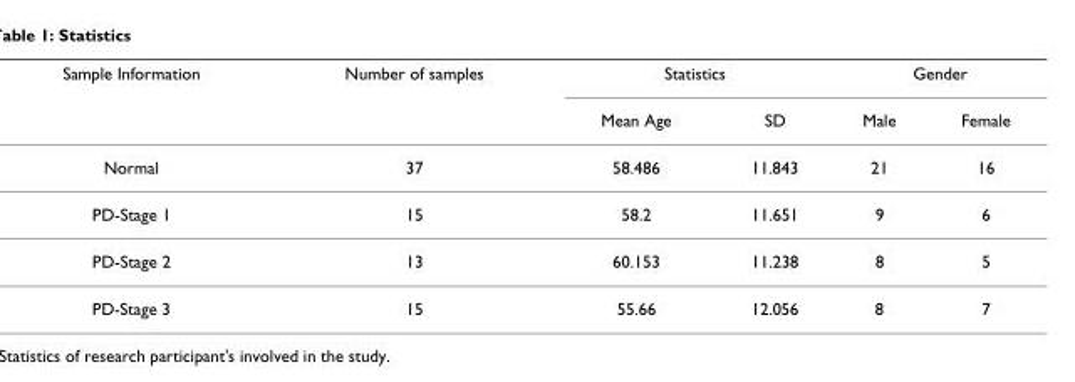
<table><thead><tr><td rowspan="2">Sample Information</td><td rowspan="2">Number of samples</td><td colspan="2">Statistics</td><td colspan="2">Gender</td></tr><tr><td>Mean Age</td><td>SD</td><td>Male</td><td>Female</td></tr></thead><tbody><tr><td>Normal</td><td>37</td><td>58.486</td><td>11.843</td><td>21</td><td>16</td></tr><tr><td>PD-Stage 1</td><td>15</td><td>58.2</td><td>11.651</td><td>9</td><td>6</td></tr><tr><td>PD-Stage 2</td><td>13</td><td>60.153</td><td>11.238</td><td>8</td><td>5</td></tr><tr><td>PD-Stage 3</td><td>15</td><td>55.66</td><td>12.056</td><td>8</td><td>7</td></tr></tbody></table>